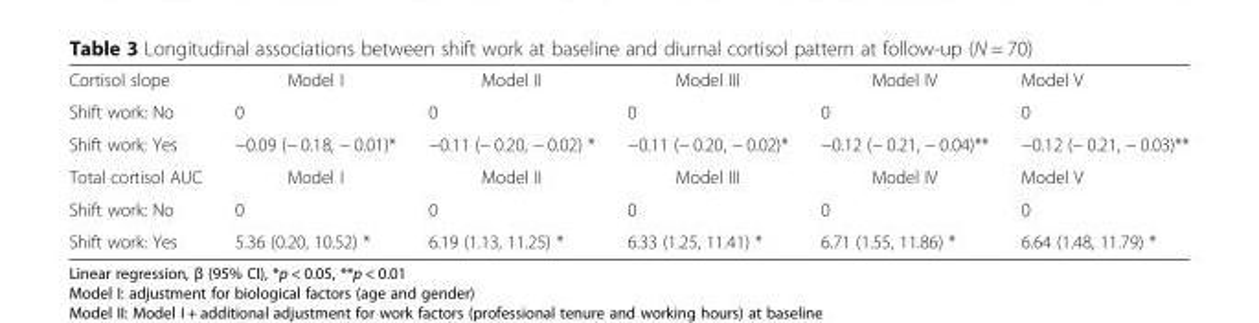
<table><tbody><tr><td>Cortisol slope</td><td>Model I</td><td>Model II</td><td>Model III</td><td>Model IV</td><td>Model V</td></tr><tr><td>Shift work: No</td><td>0</td><td>0</td><td>0</td><td>0</td><td>0</td></tr><tr><td>Shift work: Yes</td><td>−0.09 (− 0.18, − 0.01)*</td><td>−0.11 (− 0.20, − 0.02) *</td><td>−0.11 (− 0.20, − 0.02)*</td><td>−0.12 (− 0.21, − 0.04)**</td><td>−0.12 (− 0.21, − 0.03)**</td></tr><tr><td>Total cortisol AUC</td><td>Model I</td><td>Model II</td><td>Model III</td><td>Model IV</td><td>Model V</td></tr><tr><td>Shift work: No</td><td>0</td><td>0</td><td>0</td><td>0</td><td>0</td></tr><tr><td>Shift work: Yes</td><td>5.36 (0.20, 10.52) *</td><td>6.19 (1.13, 11.25) *</td><td>6.33 (1.25, 11.41) *</td><td>6.71 (1.55, 11.86) *</td><td>6.64 (1.48, 11.79) *</td></tr></tbody></table>